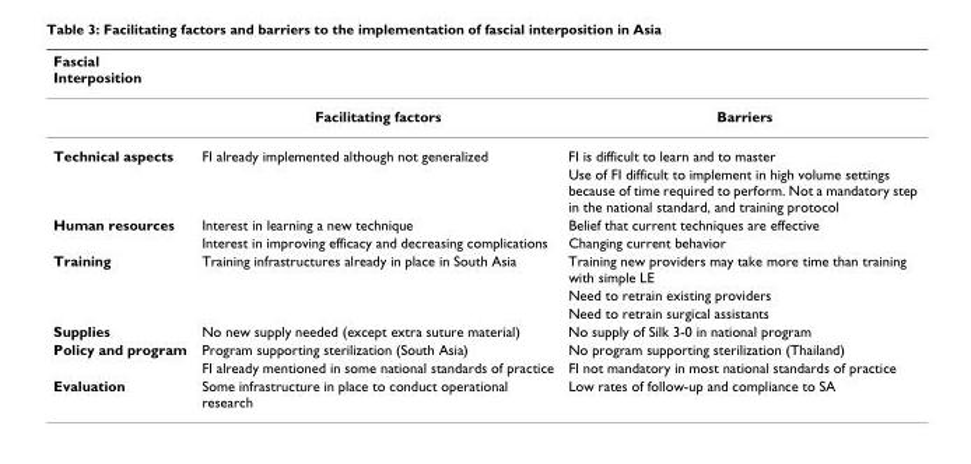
<table><thead><tr><td>Fascial Interposition</td><td></td><td></td></tr></thead><tbody><tr><td></td><td>Facilitating factors</td><td>Barriers</td></tr><tr><td rowspan="2">Technical aspects</td><td>FI already implemented although not generalized</td><td>FI is difficult to learn and to master</td></tr><tr><td></td><td>Use of FI difficult to implement in high volume settings because of time required to perform. Not a mandatory step in the national standard, and training protocol</td></tr><tr><td rowspan="2">Human resources</td><td>Interest in learning a new technique</td><td>Belief that current techniques are effective</td></tr><tr><td>Interest in improving efficacy and decreasing complications</td><td>Changing current behavior</td></tr><tr><td rowspan="3">Training</td><td>Training infrastructures already in place in South Asia</td><td>Training new providers may take more time than training with simple LE</td></tr><tr><td></td><td>Need to retrain existing providers</td></tr><tr><td></td><td>Need to retrain surgical assistants</td></tr><tr><td>Supplies</td><td>No new supply needed (except extra suture material)</td><td>No supply of Silk 3-0 in national program</td></tr><tr><td rowspan="2">Policy and program</td><td>Program supporting sterilization (South Asia)</td><td>No program supporting sterilization (Thailand)</td></tr><tr><td>FI already mentioned in some national standards of practice</td><td>FI not mandatory in most national standards of practice</td></tr><tr><td>Evaluation</td><td>Some infrastructure in place to conduct operational research</td><td>Low rates of follow-up and compliance to SA</td></tr></tbody></table>